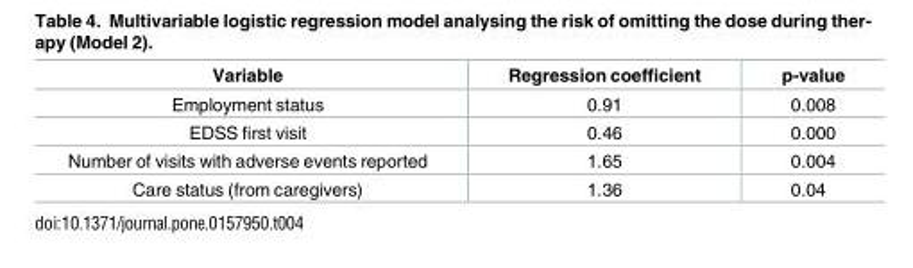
<table><thead><tr><td>Variable</td><td>Regression coefficient</td><td>p-value</td></tr></thead><tbody><tr><td>Employment status</td><td>0.91</td><td>0.008</td></tr><tr><td>EDSS first visit</td><td>0.46</td><td>0.000</td></tr><tr><td>Number of visits with adverse events reported</td><td>1.65</td><td>0.004</td></tr><tr><td>Care status (from caregivers)</td><td>1.36</td><td>0.04</td></tr></tbody></table>